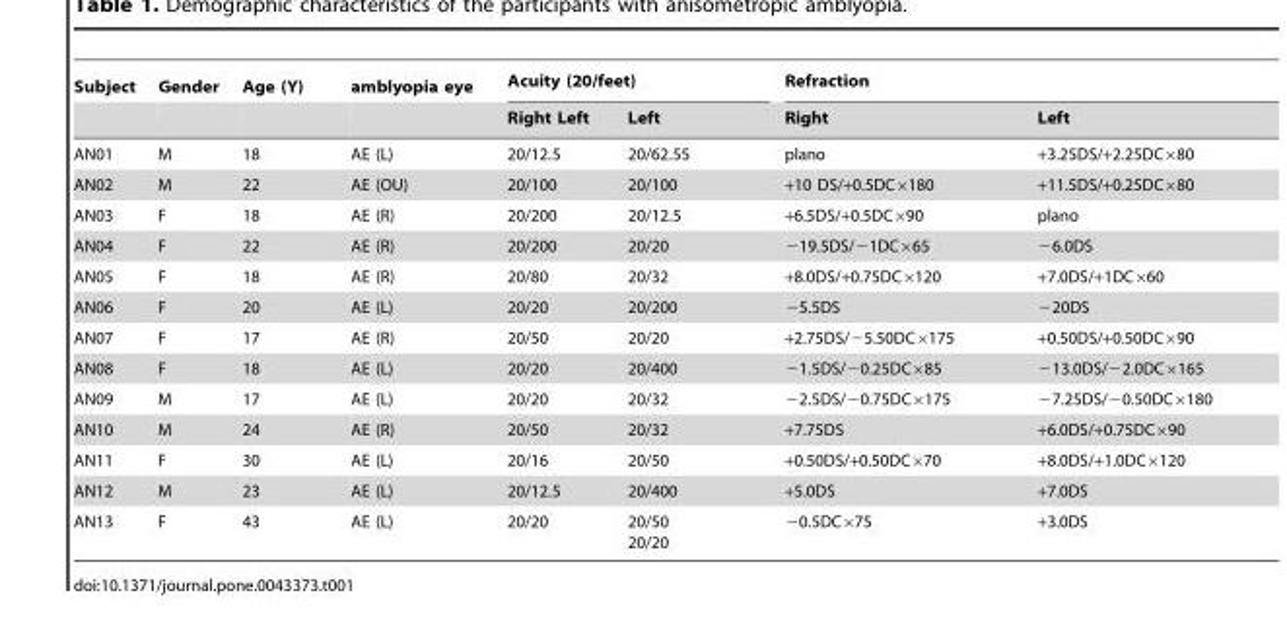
<table><thead><tr><td rowspan="2">Subject</td><td rowspan="2">Gender</td><td rowspan="2">Age (Y)</td><td rowspan="2">amblyopia eye</td><td colspan="2">Acuity (20/feet)</td><td colspan="2">Refraction</td></tr><tr><td>Right Left</td><td>Left</td><td>Right</td><td>Left</td></tr></thead><tbody><tr><td>AN01</td><td>M</td><td>18</td><td>AE (L)</td><td>20/12.5</td><td>20/62.55</td><td>plano</td><td>+3.25DS/+2.25DC×80</td></tr><tr><td>AN02</td><td>M</td><td>22</td><td>AE (OU)</td><td>20/100</td><td>20/100</td><td>+10 DS/+0.5DC×180</td><td>+11.5DS/+0.25DC×80</td></tr><tr><td>AN03</td><td>F</td><td>18</td><td>AE (R)</td><td>20/200</td><td>20/12.5</td><td>+6.5DS/+0.5DC×90</td><td>plano</td></tr><tr><td>AN04</td><td>F</td><td>22</td><td>AE (R)</td><td>20/200</td><td>20/20</td><td>−19.5DS/−1DC×65</td><td>−6.0DS</td></tr><tr><td>AN05</td><td>F</td><td>18</td><td>AE (R)</td><td>20/80</td><td>20/32</td><td>+8.0DS/+0.75DC×120</td><td>+7.0DS/+1DC×60</td></tr><tr><td>AN06</td><td>F</td><td>20</td><td>AE (L)</td><td>20/20</td><td>20/200</td><td>−5.5DS</td><td>−20DS</td></tr><tr><td>AN07</td><td>F</td><td>17</td><td>AE (R)</td><td>20/50</td><td>20/20</td><td>+2.75DS/−5.50DC×175</td><td>+0.50DS/+0.50DC×90</td></tr><tr><td>AN08</td><td>F</td><td>18</td><td>AE (L)</td><td>20/20</td><td>20/400</td><td>−1.5DS/−0.25DC×85</td><td>−13.0DS/−2.0DC×165</td></tr><tr><td>AN09</td><td>M</td><td>17</td><td>AE (L)</td><td>20/20</td><td>20/32</td><td>−2.5DS/−0.75DC×175</td><td>−7.25DS/−0.50DC×180</td></tr><tr><td>AN10</td><td>M</td><td>24</td><td>AE (R)</td><td>20/50</td><td>20/32</td><td>+7.75DS</td><td>+6.0DS/+0.75DC×90</td></tr><tr><td>AN11</td><td>F</td><td>30</td><td>AE (L)</td><td>20/16</td><td>20/50</td><td>+0.50DS/+0.50DC×70</td><td>+8.0DS/+1.0DC×120</td></tr><tr><td>AN12</td><td>M</td><td>23</td><td>AE (L)</td><td>20/12.5</td><td>20/400</td><td>+5.0DS</td><td>+7.0DS</td></tr><tr><td>AN13</td><td>F</td><td>43</td><td>AE (L)</td><td>20/20</td><td>20/50 20/20</td><td>−0.5DC×75</td><td>+3.0DS</td></tr></tbody></table>